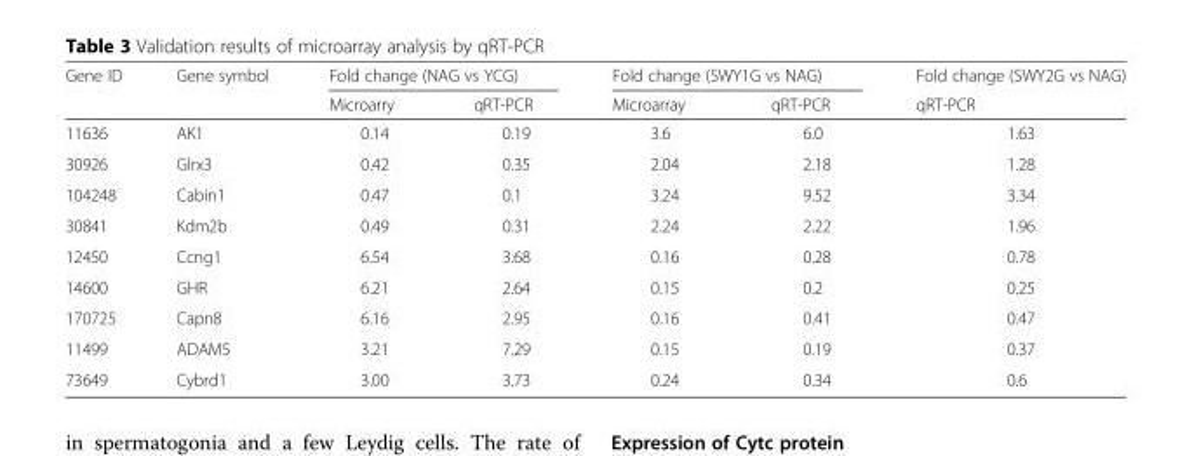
<table><thead><tr><td rowspan="2">Gene ID</td><td rowspan="2">Gene symbol</td><td colspan="2">Fold change (NAG vs YCG)</td><td colspan="2">Fold change (SWY1G vs NAG)</td><td rowspan="2">Fold change (SWY2G vs NAG) qRT-PCR</td></tr><tr><td>Microarry</td><td>qRT-PCR</td><td>Microarray</td><td>qRT-PCR</td></tr></thead><tbody><tr><td>11636</td><td>AK1</td><td>0.14</td><td>0.19</td><td>3.6</td><td>6.0</td><td>1.63</td></tr><tr><td>30926</td><td>Glrx3</td><td>0.42</td><td>0.35</td><td>2.04</td><td>2.18</td><td>1.28</td></tr><tr><td>104248</td><td>Cabin1</td><td>0.47</td><td>0.1</td><td>3.24</td><td>9.52</td><td>3.34</td></tr><tr><td>30841</td><td>Kdm2b</td><td>0.49</td><td>0.31</td><td>2.24</td><td>2.22</td><td>1.96</td></tr><tr><td>12450</td><td>Ccng1</td><td>6.54</td><td>3.68</td><td>0.16</td><td>0.28</td><td>0.78</td></tr><tr><td>14600</td><td>GHR</td><td>6.21</td><td>2.64</td><td>0.15</td><td>0.2</td><td>0.25</td></tr><tr><td>170725</td><td>Capn8</td><td>6.16</td><td>2.95</td><td>0.16</td><td>0.41</td><td>0.47</td></tr><tr><td>11499</td><td>ADAM5</td><td>3.21</td><td>7.29</td><td>0.15</td><td>0.19</td><td>0.37</td></tr><tr><td>73649</td><td>Cybrd1</td><td>3.00</td><td>3.73</td><td>0.24</td><td>0.34</td><td>0.6</td></tr></tbody></table>